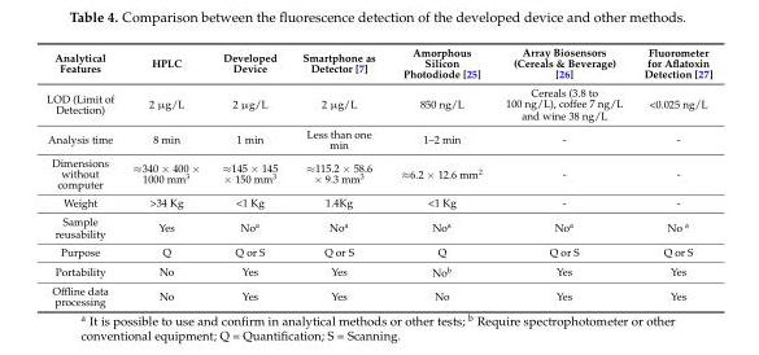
<table><thead><tr><td>Analytical Features</td><td>HPLC</td><td>Developed Device</td><td>Smartphone as Detector [7]</td><td>Amorphous Silicon Photodiode [25]</td><td>Array Biosensors (Cereals &amp; Beverage) [26]</td><td>Fluorometer for Aflatoxin Detection [27]</td></tr></thead><tbody><tr><td>LOD (Limit of Detection)</td><td>2 µg/L</td><td>2 µg/L</td><td>2 µg/L</td><td>850 ng/L</td><td>Cereals (3.8 to 100 ng/L), coffee 7 ng/L and wine 38 ng/L</td><td>&lt;0.025 ng/L</td></tr><tr><td>Analysis time</td><td>8 min</td><td>1 min</td><td>Less than one min</td><td>1–2 min</td><td>-</td><td>-</td></tr><tr><td>Dimensions without computer</td><td>≈340 × 400 × 1000 mm<sup>3</sup></td><td>≈145 × 145 × 150 mm<sup>3</sup></td><td>≈115.2 × 58.6 × 9.3 mm<sup>3</sup></td><td>≈6.2 × 12.6 mm<sup>2</sup></td><td>-</td><td>-</td></tr><tr><td>Weight</td><td>&gt;34 Kg</td><td>&lt;1 Kg</td><td>1.4Kg</td><td>&lt;1 Kg</td><td>-</td><td>-</td></tr><tr><td>Sample reusability</td><td>Yes</td><td>No<sup>a</sup></td><td>No<sup>a</sup></td><td>No<sup>a</sup></td><td>No<sup>a</sup></td><td>No <sup>a</sup></td></tr><tr><td>Purpose</td><td>Q</td><td>Q or S</td><td>Q or S</td><td>Q</td><td>Q or S</td><td>Q or S</td></tr><tr><td>Portability</td><td>No</td><td>Yes</td><td>Yes</td><td>No<sup>b</sup></td><td>Yes</td><td>Yes</td></tr><tr><td>Offline data processing</td><td>No</td><td>Yes</td><td>Yes</td><td>No</td><td>Yes</td><td>Yes</td></tr></tbody></table>